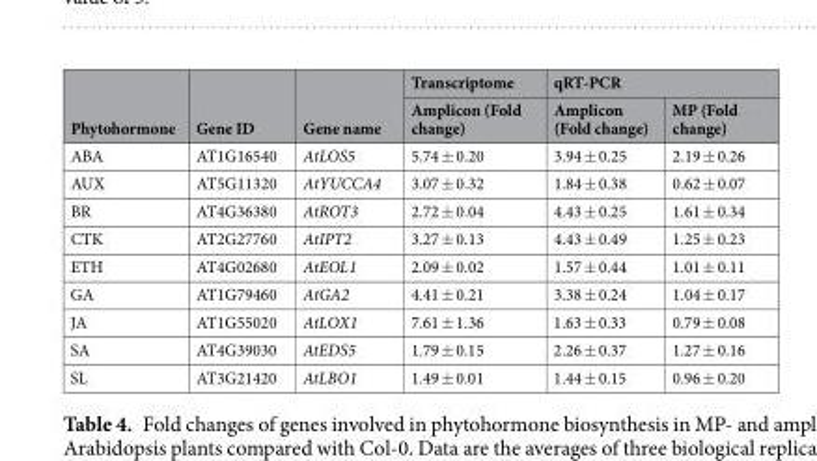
<table><thead><tr><td rowspan="2">Phytohormone</td><td rowspan="2">Gene ID</td><td rowspan="2">Gene name</td><td rowspan="2">Transcriptome Amplicon (Fold change)</td><td colspan="2">qRT-PCR</td></tr><tr><td>Amplicon (Fold change)</td><td>MP (Fold change)</td></tr></thead><tbody><tr><td>ABA</td><td>AT1G16540</td><td>AtLOS5</td><td>5.74 ± 0.20</td><td>3.94 ± 0.25</td><td>2.19 ± 0.26</td></tr><tr><td>AUX</td><td>AT5G11320</td><td>AtYUCCA4</td><td>3.07 ± 0.32</td><td>1.84 ± 0.38</td><td>0.62 ± 0.07</td></tr><tr><td>BR</td><td>AT4G36380</td><td>AtROT3</td><td>2.72 ± 0.04</td><td>4.43 ± 0.25</td><td>1.61 ± 0.34</td></tr><tr><td>CTK</td><td>AT2G27760</td><td>AtIPT2</td><td>3.27 ± 0.13</td><td>4.43 ± 0.49</td><td>1.25 ± 0.23</td></tr><tr><td>ETH</td><td>AT4G02680</td><td>AtEOL1</td><td>2.09 ± 0.02</td><td>1.57 ± 0.44</td><td>1.01 ± 0.11</td></tr><tr><td>GA</td><td>AT1G79460</td><td>AtGA2</td><td>4.41 ± 0.21</td><td>3.38 ± 0.24</td><td>1.04 ± 0.17</td></tr><tr><td>JA</td><td>AT1G55020</td><td>AtLOX1</td><td>7.61 ± 1.36</td><td>1.63 ± 0.33</td><td>0.79 ± 0.08</td></tr><tr><td>SA</td><td>AT4G39030</td><td>AtEDS5</td><td>1.79 ± 0.15</td><td>2.26 ± 0.37</td><td>1.27 ± 0.16</td></tr><tr><td>SL</td><td>AT3G21420</td><td>AtLBO1</td><td>1.49 ± 0.01</td><td>1.44 ± 0.15</td><td>0.96 ± 0.20</td></tr></tbody></table>